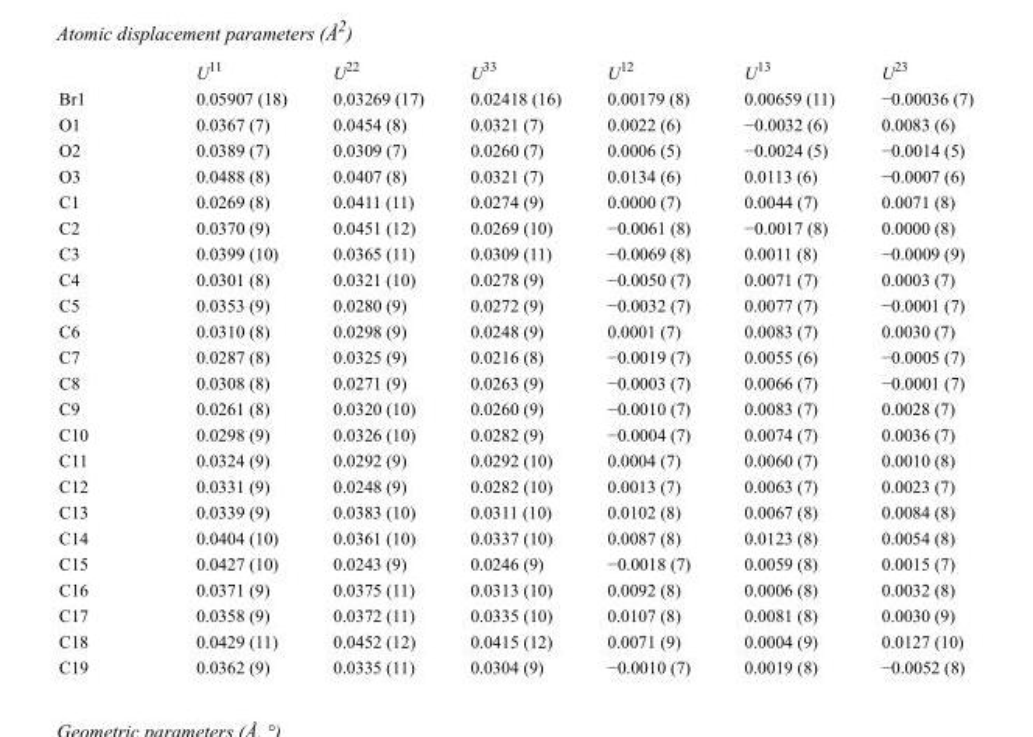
<table><thead><tr><td></td><td>U<sup>11</sup></td><td>U<sup>22</sup></td><td>U<sup>33</sup></td><td>U<sup>12</sup></td><td>U<sup>13</sup></td><td>U<sup>23</sup></td></tr></thead><tbody><tr><td>Br1</td><td>0.05907 (18)</td><td>0.03269 (17)</td><td>0.02418 (16)</td><td>0.00179 (8)</td><td>0.00659 (11)</td><td>−0.00036 (7)</td></tr><tr><td>O1</td><td>0.0367 (7)</td><td>0.0454 (8)</td><td>0.0321 (7)</td><td>0.0022 (6)</td><td>−0.0032 (6)</td><td>0.0083 (6)</td></tr><tr><td>O2</td><td>0.0389 (7)</td><td>0.0309 (7)</td><td>0.0260 (7)</td><td>0.0006 (5)</td><td>−0.0024 (5)</td><td>−0.0014 (5)</td></tr><tr><td>O3</td><td>0.0488 (8)</td><td>0.0407 (8)</td><td>0.0321 (7)</td><td>0.0134 (6)</td><td>0.0113 (6)</td><td>−0.0007 (6)</td></tr><tr><td>C1</td><td>0.0269 (8)</td><td>0.0411 (11)</td><td>0.0274 (9)</td><td>0.0000 (7)</td><td>0.0044 (7)</td><td>0.0071 (8)</td></tr><tr><td>C2</td><td>0.0370 (9)</td><td>0.0451 (12)</td><td>0.0269 (10)</td><td>−0.0061 (8)</td><td>−0.0017 (8)</td><td>0.0000 (8)</td></tr><tr><td>C3</td><td>0.0399 (10)</td><td>0.0365 (11)</td><td>0.0309 (11)</td><td>−0.0069 (8)</td><td>0.0011 (8)</td><td>−0.0009 (9)</td></tr><tr><td>C4</td><td>0.0301 (8)</td><td>0.0321 (10)</td><td>0.0278 (9)</td><td>−0.0050 (7)</td><td>0.0071 (7)</td><td>0.0003 (7)</td></tr><tr><td>C5</td><td>0.0353 (9)</td><td>0.0280 (9)</td><td>0.0272 (9)</td><td>−0.0032 (7)</td><td>0.0077 (7)</td><td>−0.0001 (7)</td></tr><tr><td>C6</td><td>0.0310 (8)</td><td>0.0298 (9)</td><td>0.0248 (9)</td><td>0.0001 (7)</td><td>0.0083 (7)</td><td>0.0030 (7)</td></tr><tr><td>C7</td><td>0.0287 (8)</td><td>0.0325 (9)</td><td>0.0216 (8)</td><td>−0.0019 (7)</td><td>0.0055 (6)</td><td>−0.0005 (7)</td></tr><tr><td>C8</td><td>0.0308 (8)</td><td>0.0271 (9)</td><td>0.0263 (9)</td><td>−0.0003 (7)</td><td>0.0066 (7)</td><td>−0.0001 (7)</td></tr><tr><td>C9</td><td>0.0261 (8)</td><td>0.0320 (10)</td><td>0.0260 (9)</td><td>−0.0010 (7)</td><td>0.0083 (7)</td><td>0.0028 (7)</td></tr><tr><td>C10</td><td>0.0298 (9)</td><td>0.0326 (10)</td><td>0.0282 (9)</td><td>−0.0004 (7)</td><td>0.0074 (7)</td><td>0.0036 (7)</td></tr><tr><td>C11</td><td>0.0324 (9)</td><td>0.0292 (9)</td><td>0.0292 (10)</td><td>0.0004 (7)</td><td>0.0060 (7)</td><td>0.0010 (8)</td></tr><tr><td>C12</td><td>0.0331 (9)</td><td>0.0248 (9)</td><td>0.0282 (10)</td><td>0.0013 (7)</td><td>0.0063 (7)</td><td>0.0023 (7)</td></tr><tr><td>C13</td><td>0.0339 (9)</td><td>0.0383 (10)</td><td>0.0311 (10)</td><td>0.0102 (8)</td><td>0.0067 (8)</td><td>0.0084 (8)</td></tr><tr><td>C14</td><td>0.0404 (10)</td><td>0.0361 (10)</td><td>0.0337 (10)</td><td>0.0087 (8)</td><td>0.0123 (8)</td><td>0.0054 (8)</td></tr><tr><td>C15</td><td>0.0427 (10)</td><td>0.0243 (9)</td><td>0.0246 (9)</td><td>−0.0018 (7)</td><td>0.0059 (8)</td><td>0.0015 (7)</td></tr><tr><td>C16</td><td>0.0371 (9)</td><td>0.0375 (11)</td><td>0.0313 (10)</td><td>0.0092 (8)</td><td>0.0006 (8)</td><td>0.0032 (8)</td></tr><tr><td>C17</td><td>0.0358 (9)</td><td>0.0372 (11)</td><td>0.0335 (10)</td><td>0.0107 (8)</td><td>0.0081 (8)</td><td>0.0030 (9)</td></tr><tr><td>C18</td><td>0.0429 (11)</td><td>0.0452 (12)</td><td>0.0415 (12)</td><td>0.0071 (9)</td><td>0.0004 (9)</td><td>0.0127 (10)</td></tr><tr><td>C19</td><td>0.0362 (9)</td><td>0.0335 (11)</td><td>0.0304 (9)</td><td>−0.0010 (7)</td><td>0.0019 (8)</td><td>−0.0052 (8)</td></tr></tbody></table>